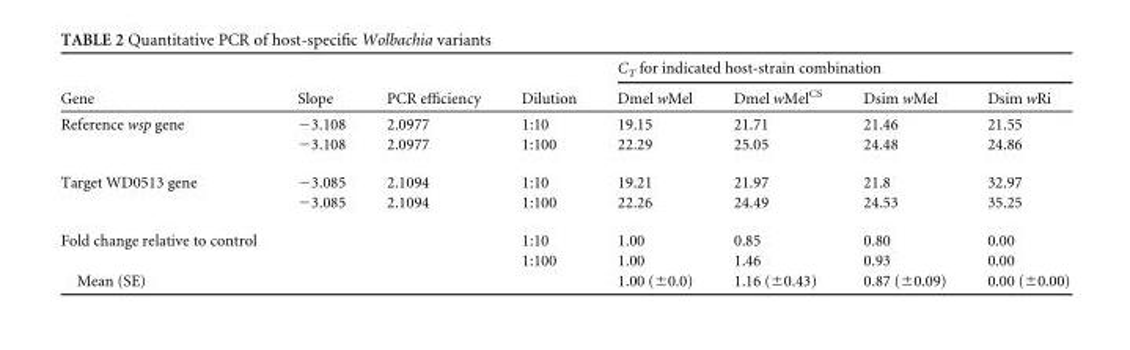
<table><thead><tr><td rowspan="2">Gene</td><td rowspan="2">Slope</td><td rowspan="2">PCR efficiency</td><td rowspan="2">Dilution</td><td colspan="4">C<sub>T</sub> for indicated host-strain combination</td></tr><tr><td>Dmel wMel</td><td>Dmel wMel<sup>CS</sup></td><td>Dsim wMel</td><td>Dsim wRi</td></tr></thead><tbody><tr><td rowspan="2">Reference wsp gene</td><td>−3.108</td><td>2.0977</td><td>1:10</td><td>19.15</td><td>21.71</td><td>21.46</td><td>21.55</td></tr><tr><td>−3.108</td><td>2.0977</td><td>1:100</td><td>22.29</td><td>25.05</td><td>24.48</td><td>24.86</td></tr><tr><td rowspan="2">Target WD0513 gene</td><td>−3.085</td><td>2.1094</td><td>1:10</td><td>19.21</td><td>21.97</td><td>21.8</td><td>32.97</td></tr><tr><td>−3.085</td><td>2.1094</td><td>1:100</td><td>22.26</td><td>24.49</td><td>24.53</td><td>35.25</td></tr><tr><td rowspan="2">Fold change relative to control</td><td></td><td></td><td>1:10</td><td>1.00</td><td>0.85</td><td>0.80</td><td>0.00</td></tr><tr><td></td><td></td><td>1:100</td><td>1.00</td><td>1.46</td><td>0.93</td><td>0.00</td></tr><tr><td>Mean (SE)</td><td></td><td></td><td></td><td>1.00 (±0.0)</td><td>1.16 (±0.43)</td><td>0.87 (±0.09)</td><td>0.00 (±0.00)</td></tr></tbody></table>